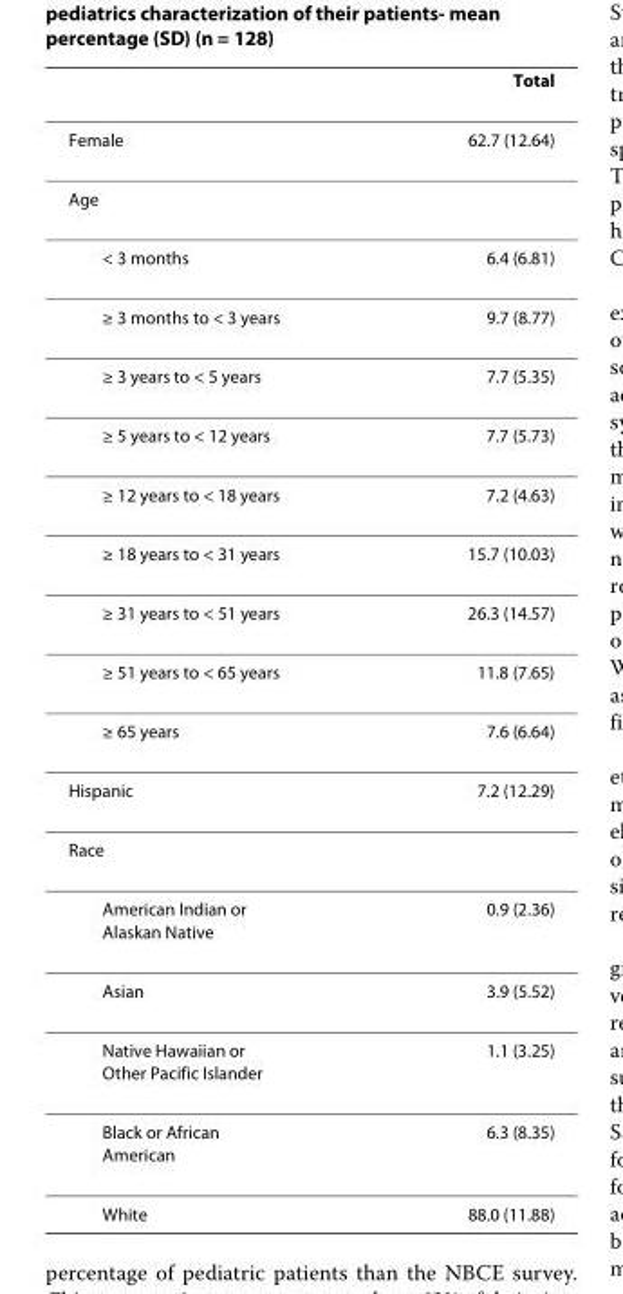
<table><thead><tr><td></td><td>Total</td></tr></thead><tbody><tr><td>Female</td><td>62.7 (12.64)</td></tr><tr><td colspan="2">Age</td></tr><tr><td>&lt; 3 months</td><td>6.4 (6.81)</td></tr><tr><td>≥ 3 months to &lt; 3 years</td><td>9.7 (8.77)</td></tr><tr><td>≥ 3 years to &lt; 5 years</td><td>7.7 (5.35)</td></tr><tr><td>≥ 5 years to &lt; 12 years</td><td>7.7 (5.73)</td></tr><tr><td>≥ 12 years to &lt; 18 years</td><td>7.2 (4.63)</td></tr><tr><td>≥ 18 years to &lt; 31 years</td><td>15.7 (10.03)</td></tr><tr><td>≥ 31 years to &lt; 51 years</td><td>26.3 (14.57)</td></tr><tr><td>≥ 51 years to &lt; 65 years</td><td>11.8 (7.65)</td></tr><tr><td>≥ 65 years</td><td>7.6 (6.64)</td></tr><tr><td>Hispanic</td><td>7.2 (12.29)</td></tr><tr><td colspan="2">Race</td></tr><tr><td>American Indian or Alaskan Native</td><td>0.9 (2.36)</td></tr><tr><td>Asian</td><td>3.9 (5.52)</td></tr><tr><td>Native Hawaiian or Other Pacific Islander</td><td>1.1 (3.25)</td></tr><tr><td>Black or African American</td><td>6.3 (8.35)</td></tr><tr><td>White</td><td>88.0 (11.88)</td></tr></tbody></table>